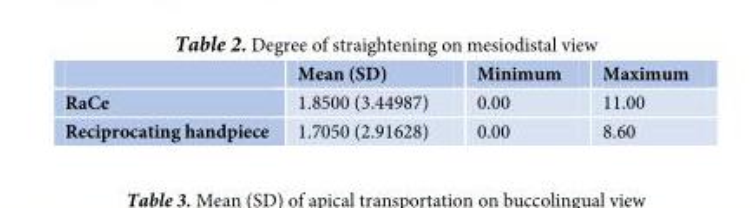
<table><thead><tr><td></td><td>Mean (SD)</td><td>Minimum</td><td>Maximum</td></tr></thead><tbody><tr><td>RaCe</td><td>1.8500 (3.44987)</td><td>0.00</td><td>11.00</td></tr><tr><td>Reciprocating handpiece</td><td>1.7050 (2.91628)</td><td>0.00</td><td>8.60</td></tr></tbody></table>